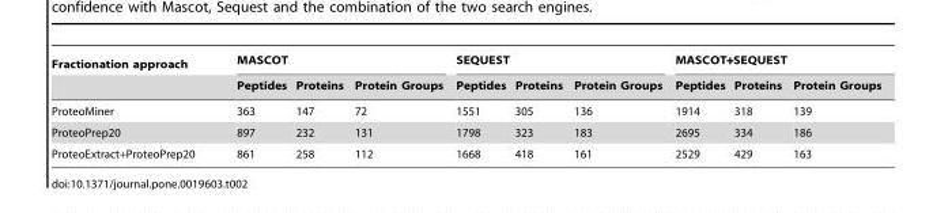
<table><thead><tr><td rowspan="2">Fractionation approach</td><td colspan="3">MASCOT</td><td colspan="3">SEQUEST</td><td colspan="3">MASCOT+SEQUEST</td></tr><tr><td>Peptides</td><td>Proteins</td><td>Protein Groups</td><td>Peptides</td><td>Proteins</td><td>Protein Groups</td><td>Peptides</td><td>Proteins</td><td>Protein Groups</td></tr></thead><tbody><tr><td>ProteoMiner</td><td>363</td><td>147</td><td>72</td><td>1551</td><td>305</td><td>136</td><td>1914</td><td>318</td><td>139</td></tr><tr><td>ProteoPrep20</td><td>897</td><td>232</td><td>131</td><td>1798</td><td>323</td><td>183</td><td>2695</td><td>334</td><td>186</td></tr><tr><td>ProteoExtract+ProteoPrep20</td><td>861</td><td>258</td><td>112</td><td>1668</td><td>418</td><td>161</td><td>2529</td><td>429</td><td>163</td></tr></tbody></table>